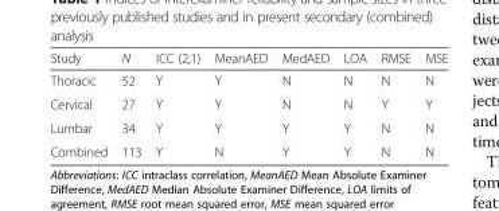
<table><thead><tr><td>Study</td><td>N</td><td>ICC (2,1)</td><td>MeanAED</td><td>MedAED</td><td>LOA</td><td>RMSE</td><td>MSE</td></tr></thead><tbody><tr><td>Thoracic</td><td>52</td><td>Y</td><td>Y</td><td>N</td><td>N</td><td>N</td><td>N</td></tr><tr><td>Cervical</td><td>27</td><td>Y</td><td>Y</td><td>N</td><td>N</td><td>Y</td><td>Y</td></tr><tr><td>Lumbar</td><td>34</td><td>Y</td><td>Y</td><td>Y</td><td>Y</td><td>N</td><td>N</td></tr><tr><td>Combined</td><td>113</td><td>Y</td><td>N</td><td>Y</td><td>Y</td><td>N</td><td>N</td></tr></tbody></table>